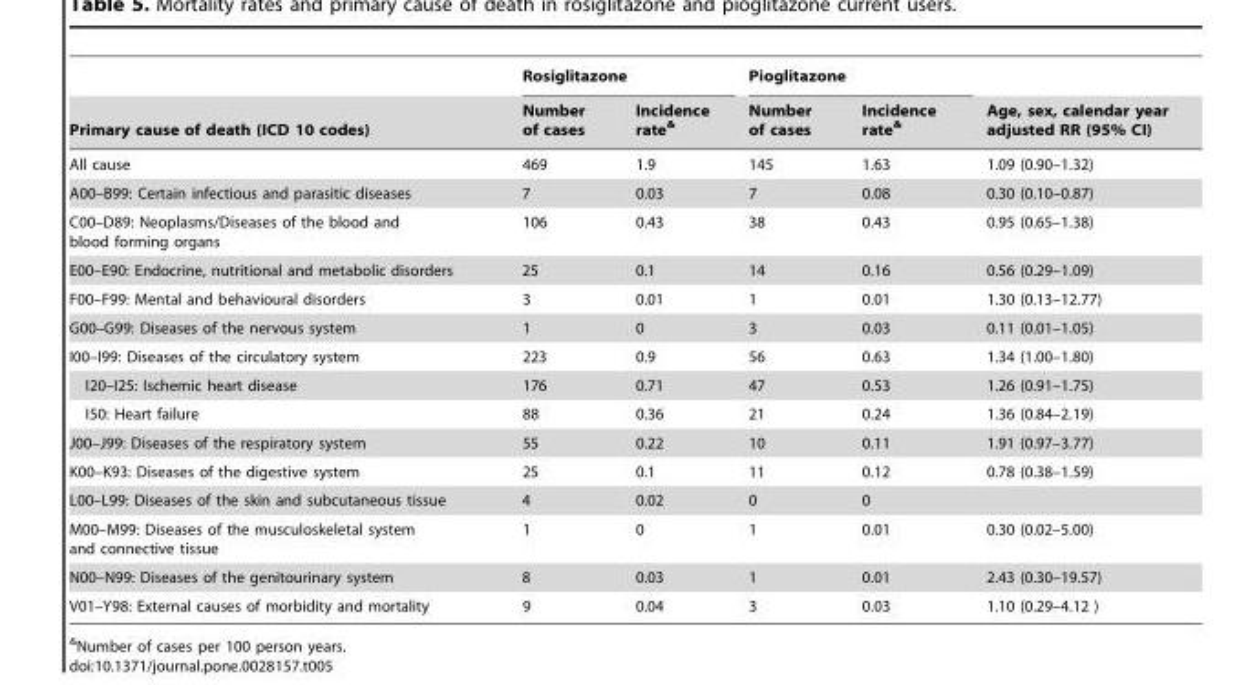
<table><thead><tr><td rowspan="2">Primary cause of death (ICD 10 codes)</td><td colspan="2">Rosiglitazone</td><td colspan="2">Pioglitazone</td><td rowspan="2">Age, sex, calendar year adjusted RR (95% CI)</td></tr><tr><td>Number of cases</td><td>Incidence rate&amp;</td><td>Number of cases</td><td>Incidence rate&amp;</td></tr></thead><tbody><tr><td>All cause</td><td>469</td><td>1.9</td><td>145</td><td>1.63</td><td>1.09 (0.90–1.32)</td></tr><tr><td>A00–B99: Certain infectious and parasitic diseases</td><td>7</td><td>0.03</td><td>7</td><td>0.08</td><td>0.30 (0.10–0.87)</td></tr><tr><td>C00–D89: Neoplasms/Diseases of the blood and blood forming organs</td><td>106</td><td>0.43</td><td>38</td><td>0.43</td><td>0.95 (0.65–1.38)</td></tr><tr><td>E00–E90: Endocrine, nutritional and metabolic disorders</td><td>25</td><td>0.1</td><td>14</td><td>0.16</td><td>0.56 (0.29–1.09)</td></tr><tr><td>F00–F99: Mental and behavioural disorders</td><td>3</td><td>0.01</td><td>1</td><td>0.01</td><td>1.30 (0.13–12.77)</td></tr><tr><td>G00–G99: Diseases of the nervous system</td><td>1</td><td>0</td><td>3</td><td>0.03</td><td>0.11 (0.01–1.05)</td></tr><tr><td>I00–I99: Diseases of the circulatory system</td><td>223</td><td>0.9</td><td>56</td><td>0.63</td><td>1.34 (1.00–1.80)</td></tr><tr><td>I20–I25: Ischemic heart disease</td><td>176</td><td>0.71</td><td>47</td><td>0.53</td><td>1.26 (0.91–1.75)</td></tr><tr><td>I50: Heart failure</td><td>88</td><td>0.36</td><td>21</td><td>0.24</td><td>1.36 (0.84–2.19)</td></tr><tr><td>J00–J99: Diseases of the respiratory system</td><td>55</td><td>0.22</td><td>10</td><td>0.11</td><td>1.91 (0.97–3.77)</td></tr><tr><td>K00–K93: Diseases of the digestive system</td><td>25</td><td>0.1</td><td>11</td><td>0.12</td><td>0.78 (0.38–1.59)</td></tr><tr><td>L00–L99: Diseases of the skin and subcutaneous tissue</td><td>4</td><td>0.02</td><td>0</td><td>0</td><td></td></tr><tr><td>M00–M99: Diseases of the musculoskeletal system and connective tissue</td><td>1</td><td>0</td><td>1</td><td>0.01</td><td>0.30 (0.02–5.00)</td></tr><tr><td>N00–N99: Diseases of the genitourinary system</td><td>8</td><td>0.03</td><td>1</td><td>0.01</td><td>2.43 (0.30–19.57)</td></tr><tr><td>V01–Y98: External causes of morbidity and mortality</td><td>9</td><td>0.04</td><td>3</td><td>0.03</td><td>1.10 (0.29–4.12 )</td></tr></tbody></table>